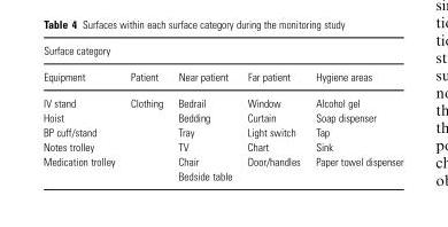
<table><thead><tr><td colspan="5">Surface category</td></tr><tr><td>Equipment</td><td>Patient</td><td>Near patient</td><td>Far patient</td><td>Hygiene areas</td></tr></thead><tbody><tr><td>IV stand</td><td>Clothing</td><td>Bedrail</td><td>Window</td><td>Alcohol gel</td></tr><tr><td>Hoist</td><td></td><td>Bedding</td><td>Curtain</td><td>Soap dispenser</td></tr><tr><td>BP cuff/stand</td><td></td><td>Tray</td><td>Light switch</td><td>Tap</td></tr><tr><td>Notes trolley</td><td></td><td>TV</td><td>Chart</td><td>Sink</td></tr><tr><td rowspan="2">Medication trolley</td><td></td><td>Chair</td><td>Door/handles</td><td>Paper towel dispenser</td></tr><tr><td></td><td>Bedside table</td><td></td><td></td></tr></tbody></table>